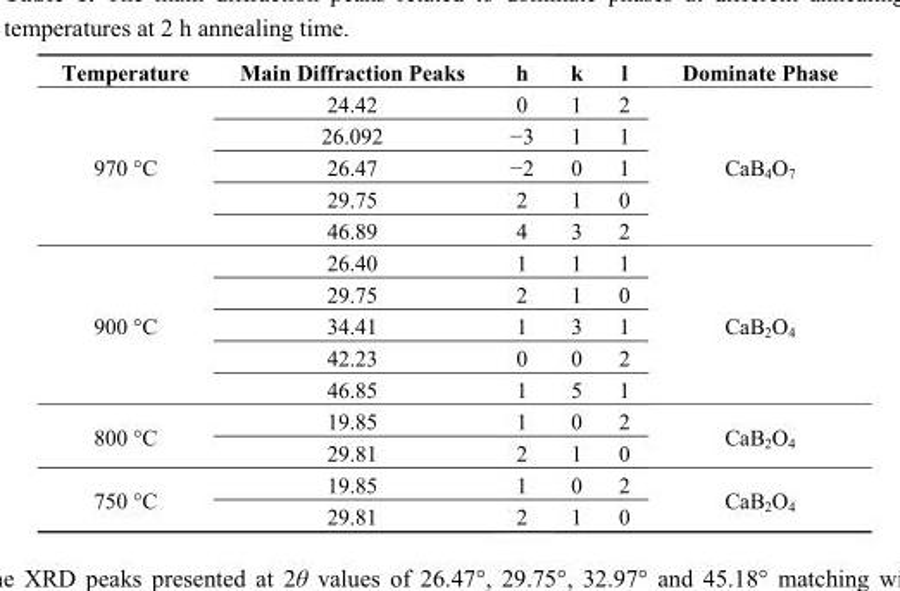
<table><thead><tr><td>Temperature</td><td>Main Diffraction Peaks</td><td>h</td><td>k</td><td>l</td><td>Dominate Phase</td></tr></thead><tbody><tr><td rowspan="5">970 °C</td><td>24.42</td><td>0</td><td>1</td><td>2</td><td rowspan="5">CaB<sub>4</sub>O<sub>7</sub></td></tr><tr><td>26.092</td><td>−3</td><td>1</td><td>1</td></tr><tr><td>26.47</td><td>−2</td><td>0</td><td>1</td></tr><tr><td>29.75</td><td>2</td><td>1</td><td>0</td></tr><tr><td>46.89</td><td>4</td><td>3</td><td>2</td></tr><tr><td rowspan="5">900 °C</td><td>26.40</td><td>1</td><td>1</td><td>1</td><td rowspan="5">CaB<sub>2</sub>O<sub>4</sub></td></tr><tr><td>29.75</td><td>2</td><td>1</td><td>0</td></tr><tr><td>34.41</td><td>1</td><td>3</td><td>1</td></tr><tr><td>42.23</td><td>0</td><td>0</td><td>2</td></tr><tr><td>46.85</td><td>1</td><td>5</td><td>1</td></tr><tr><td rowspan="2">800 °C</td><td>19.85</td><td>1</td><td>0</td><td>2</td><td rowspan="2">CaB<sub>2</sub>O<sub>4</sub></td></tr><tr><td>29.81</td><td>2</td><td>1</td><td>0</td></tr><tr><td rowspan="2">750 °C</td><td>19.85</td><td>1</td><td>0</td><td>2</td><td rowspan="2">CaB<sub>2</sub>O<sub>4</sub></td></tr><tr><td>29.81</td><td>2</td><td>1</td><td>0</td></tr></tbody></table>